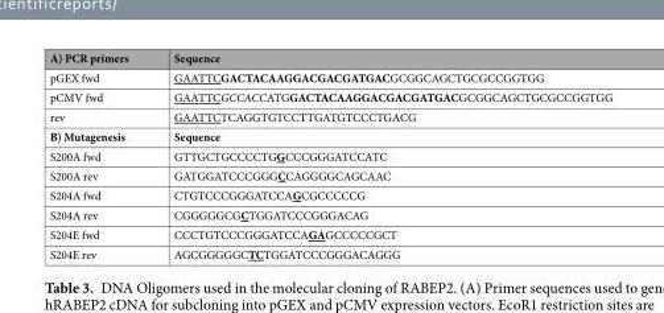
<table><thead><tr><td>A) PCR primers</td><td>Sequence</td></tr></thead><tbody><tr><td>pGEX fwd</td><td>GAATTCGACTACAAGGACGACGATGACGCGGCAGCTGCGCCGGTGG</td></tr><tr><td>pCMV fwd</td><td>GAATTCGCCACCATGGACTACAAGGACGACGATGACGCGGCAGCTGCGCCGGTGG</td></tr><tr><td>rev</td><td>GAATTCTCAGGTGTCCTTGATGTCCCTGACG</td></tr><tr><td>B) Mutagenesis</td><td>Sequence</td></tr><tr><td>S200A fwd</td><td>GTTGCTGCCCCTGGCCCGGGATCCATC</td></tr><tr><td>S200A rev</td><td>GATGGATCCCGGGCCAGGGGCAGCAAC</td></tr><tr><td>S204A fwd</td><td>CTGTCCCGGGATCCAGCGCCCCCG</td></tr><tr><td>S204A rev</td><td>CGGGGGCGCTGGATCCCGGGACAG</td></tr><tr><td>S204E fwd</td><td>CCCTGTCCCGGGATCCAGAGCCCCCGCT</td></tr><tr><td>S204E rev</td><td>AGCGGGGGCTCTGGATCCCGGGACAGGG</td></tr></tbody></table>